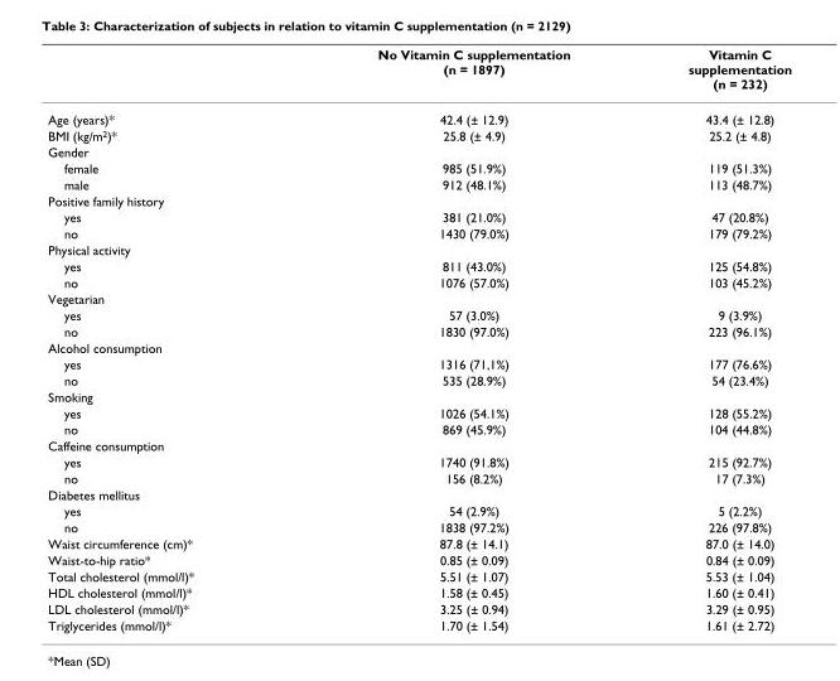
<table><thead><tr><td></td><td>No Vitamin C supplementation (n = 1897)</td><td>Vitamin C supplementation (n = 232)</td></tr></thead><tbody><tr><td>Age (years)*</td><td>42.4 (± 12.9)</td><td>43.4 (± 12.8)</td></tr><tr><td>BMI (kg/m<sup>2</sup>)*</td><td>25.8 (± 4.9)</td><td>25.2 (± 4.8)</td></tr><tr><td colspan="3">Gender</td></tr><tr><td>female</td><td>985 (51.9%)</td><td>119 (51.3%)</td></tr><tr><td>male</td><td>912 (48.1%)</td><td>113 (48.7%)</td></tr><tr><td colspan="3">Positive family history</td></tr><tr><td>yes</td><td>381 (21.0%)</td><td>47 (20.8%)</td></tr><tr><td>no</td><td>1430 (79.0%)</td><td>179 (79.2%)</td></tr><tr><td colspan="3">Physical activity</td></tr><tr><td>yes</td><td>811 (43.0%)</td><td>125 (54.8%)</td></tr><tr><td>no</td><td>1076 (57.0%)</td><td>103 (45.2%)</td></tr><tr><td colspan="3">Vegetarian</td></tr><tr><td>yes</td><td>57 (3.0%)</td><td>9 (3.9%)</td></tr><tr><td>no</td><td>1830 (97.0%)</td><td>223 (96.1%)</td></tr><tr><td colspan="3">Alcohol consumption</td></tr><tr><td>yes</td><td>1316 (71,1%)</td><td>177 (76.6%)</td></tr><tr><td>no</td><td>535 (28.9%)</td><td>54 (23.4%)</td></tr><tr><td colspan="3">Smoking</td></tr><tr><td>yes</td><td>1026 (54.1%)</td><td>128 (55.2%)</td></tr><tr><td>no</td><td>869 (45.9%)</td><td>104 (44.8%)</td></tr><tr><td colspan="3">Caffeine consumption</td></tr><tr><td>yes</td><td>1740 (91.8%)</td><td>215 (92.7%)</td></tr><tr><td>no</td><td>156 (8.2%)</td><td>17 (7.3%)</td></tr><tr><td colspan="3">Diabetes mellitus</td></tr><tr><td>yes</td><td>54 (2.9%)</td><td>5 (2.2%)</td></tr><tr><td>no</td><td>1838 (97.2%)</td><td>226 (97.8%)</td></tr><tr><td>Waist circumference (cm)*</td><td>87.8 (± 14.1)</td><td>87.0 (± 14.0)</td></tr><tr><td>Waist-to-hip ratio*</td><td>0.85 (± 0.09)</td><td>0.84 (± 0.09)</td></tr><tr><td>Total cholesterol (mmol/l)*</td><td>5.51 (± 1.07)</td><td>5.53 (± 1.04)</td></tr><tr><td>HDL cholesterol (mmol/l)*</td><td>1.58 (± 0.45)</td><td>1.60 (± 0.41)</td></tr><tr><td>LDL cholesterol (mmol/l)*</td><td>3.25 (± 0.94)</td><td>3.29 (± 0.95)</td></tr><tr><td>Triglycerides (mmol/l)*</td><td>1.70 (± 1.54)</td><td>1.61 (± 2.72)</td></tr></tbody></table>